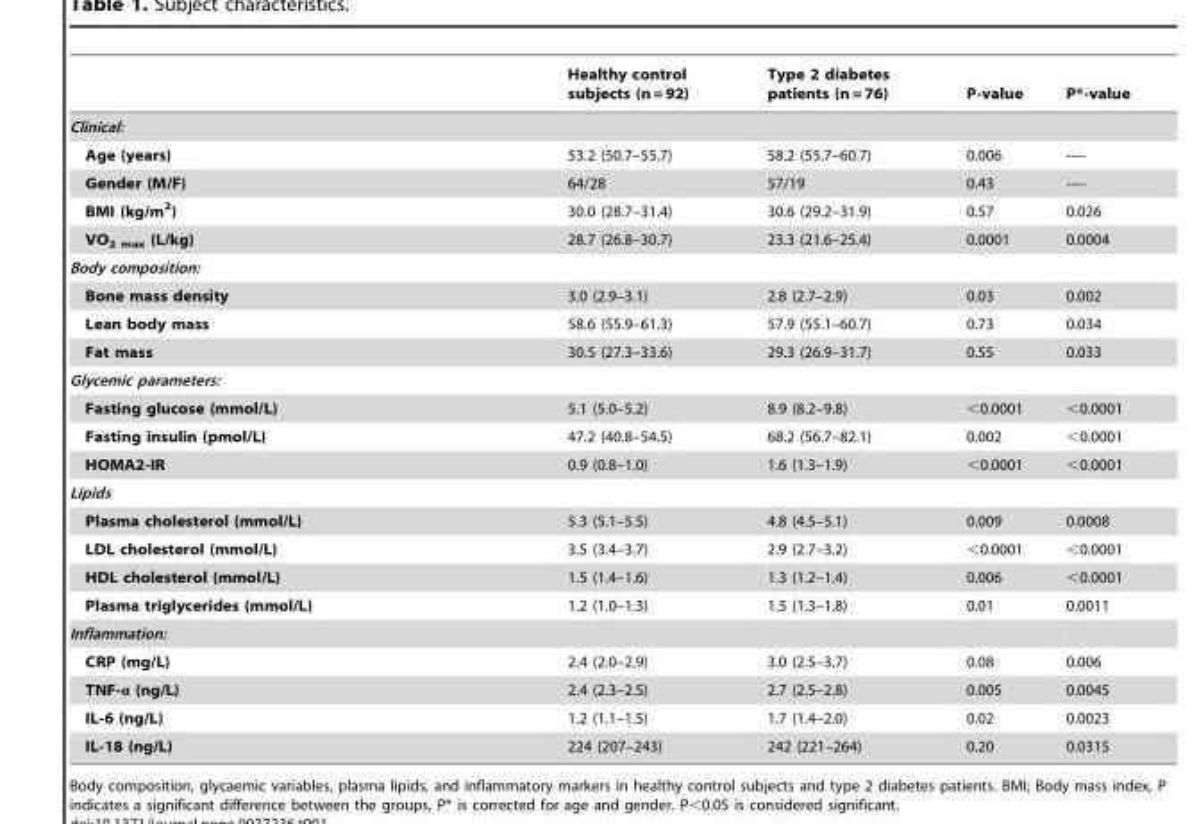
<table><thead><tr><td></td><td>Healthy control subjects (n = 92)</td><td>Type 2 diabetes patients (n = 76)</td><td>P-value</td><td>P*-value</td></tr></thead><tbody><tr><td colspan="5">Clinical:</td></tr><tr><td>Age (years)</td><td>53.2 (50.7–55.7)</td><td>58.2 (55.7–60.7)</td><td>0.006</td><td>----</td></tr><tr><td>Gender (M/F)</td><td>64/28</td><td>57/19</td><td>0.43</td><td>----</td></tr><tr><td>BMI (kg/m<sup>2</sup>)</td><td>30.0 (28.7–31.4)</td><td>30.6 (29.2–31.9)</td><td>0.57</td><td>0.026</td></tr><tr><td>VO<sub>2 max</sub> (L/kg)</td><td>28.7 (26.8–30.7)</td><td>23.3 (21.6–25.4)</td><td>0.0001</td><td>0.0004</td></tr><tr><td colspan="5">Body composition:</td></tr><tr><td>Bone mass density</td><td>3.0 (2.9–3.1)</td><td>2.8 (2.7–2.9)</td><td>0.03</td><td>0.002</td></tr><tr><td>Lean body mass</td><td>58.6 (55.9–61.3)</td><td>57.9 (55.1–60.7)</td><td>0.73</td><td>0.034</td></tr><tr><td>Fat mass</td><td>30.5 (27.3–33.6)</td><td>29.3 (26.9–31.7)</td><td>0.55</td><td>0.033</td></tr><tr><td colspan="5">Glycemic parameters:</td></tr><tr><td>Fasting glucose (mmol/L)</td><td>5.1 (5.0–5.2)</td><td>8.9 (8.2–9.8)</td><td>&lt;0.0001</td><td>&lt;0.0001</td></tr><tr><td>Fasting insulin (pmol/L)</td><td>47.2 (40.8–54.5)</td><td>68.2 (56.7–82.1)</td><td>0.002</td><td>&lt;0.0001</td></tr><tr><td>HOMA2-IR</td><td>0.9 (0.8–1.0)</td><td>1.6 (1.3–1.9)</td><td>&lt;0.0001</td><td>&lt;0.0001</td></tr><tr><td colspan="5">Lipids</td></tr><tr><td>Plasma cholesterol (mmol/L)</td><td>5.3 (5.1–5.5)</td><td>4.8 (4.5–5.1)</td><td>0.009</td><td>0.0008</td></tr><tr><td>LDL cholesterol (mmol/L)</td><td>3.5 (3.4–3.7)</td><td>2.9 (2.7–3.2)</td><td>&lt;0.0001</td><td>&lt;0.0001</td></tr><tr><td>HDL cholesterol (mmol/L)</td><td>1.5 (1.4–1.6)</td><td>1.3 (1.2–1.4)</td><td>0.006</td><td>&lt;0.0001</td></tr><tr><td>Plasma triglycerides (mmol/L)</td><td>1.2 (1.0–1.3)</td><td>1.5 (1.3–1.8)</td><td>0.01</td><td>0.0011</td></tr><tr><td colspan="5">Inflammation:</td></tr><tr><td>CRP (mg/L)</td><td>2.4 (2.0–2.9)</td><td>3.0 (2.5–3.7)</td><td>0.08</td><td>0.006</td></tr><tr><td>TNF-α (ng/L)</td><td>2.4 (2.3–2.5)</td><td>2.7 (2.5–2.8)</td><td>0.005</td><td>0.0045</td></tr><tr><td>IL-6 (ng/L)</td><td>1.2 (1.1–1.5)</td><td>1.7 (1.4–2.0)</td><td>0.02</td><td>0.0023</td></tr><tr><td>IL-18 (ng/L)</td><td>224 (207–243)</td><td>242 (221–264)</td><td>0.20</td><td>0.0315</td></tr></tbody></table>